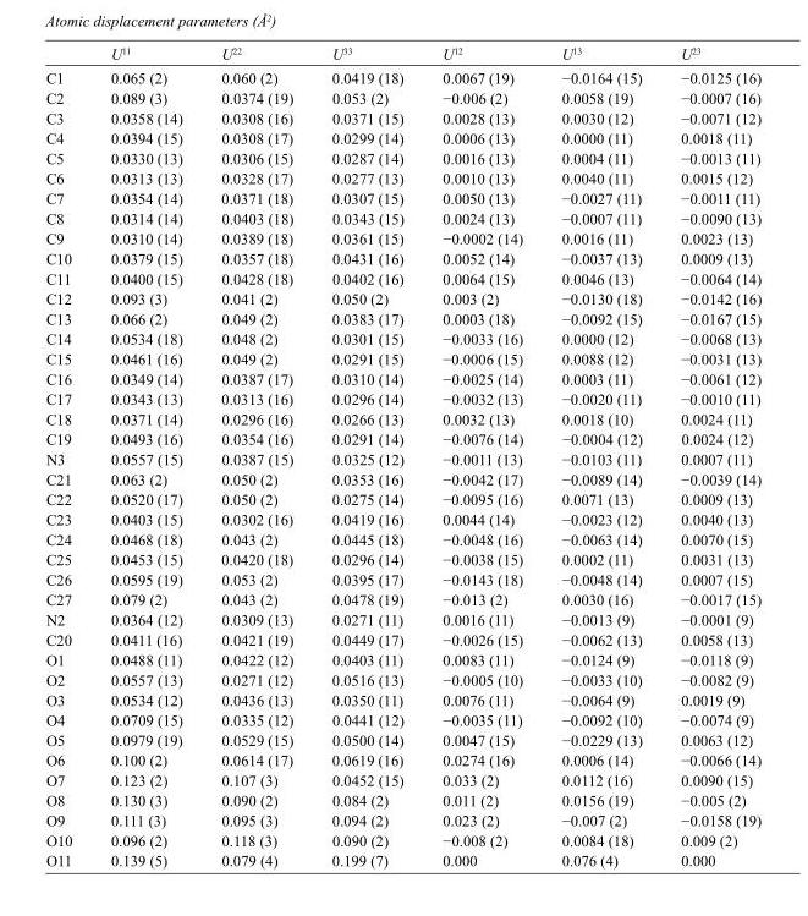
<table><thead><tr><td></td><td>U<sup>11</sup></td><td>U<sup>22</sup></td><td>U<sup>33</sup></td><td>U<sup>12</sup></td><td>U<sup>13</sup></td><td>U<sup>23</sup></td></tr></thead><tbody><tr><td>C1</td><td>0.065 (2)</td><td>0.060 (2)</td><td>0.0419 (18)</td><td>0.0067 (19)</td><td>−0.0164 (15)</td><td>−0.0125 (16)</td></tr><tr><td>C2</td><td>0.089 (3)</td><td>0.0374 (19)</td><td>0.053 (2)</td><td>−0.006 (2)</td><td>0.0058 (19)</td><td>−0.0007 (16)</td></tr><tr><td>C3</td><td>0.0358 (14)</td><td>0.0308 (16)</td><td>0.0371 (15)</td><td>0.0028 (13)</td><td>0.0030 (12)</td><td>−0.0071 (12)</td></tr><tr><td>C4</td><td>0.0394 (15)</td><td>0.0308 (17)</td><td>0.0299 (14)</td><td>0.0006 (13)</td><td>0.0000 (11)</td><td>0.0018 (11)</td></tr><tr><td>C5</td><td>0.0330 (13)</td><td>0.0306 (15)</td><td>0.0287 (14)</td><td>0.0016 (13)</td><td>0.0004 (11)</td><td>−0.0013 (11)</td></tr><tr><td>C6</td><td>0.0313 (13)</td><td>0.0328 (17)</td><td>0.0277 (13)</td><td>0.0010 (13)</td><td>0.0040 (11)</td><td>0.0015 (12)</td></tr><tr><td>C7</td><td>0.0354 (14)</td><td>0.0371 (18)</td><td>0.0307 (15)</td><td>0.0050 (13)</td><td>−0.0027 (11)</td><td>−0.0011 (11)</td></tr><tr><td>C8</td><td>0.0314 (14)</td><td>0.0403 (18)</td><td>0.0343 (15)</td><td>0.0024 (13)</td><td>−0.0007 (11)</td><td>−0.0090 (13)</td></tr><tr><td>C9</td><td>0.0310 (14)</td><td>0.0389 (18)</td><td>0.0361 (15)</td><td>−0.0002 (14)</td><td>0.0016 (11)</td><td>0.0023 (13)</td></tr><tr><td>C10</td><td>0.0379 (15)</td><td>0.0357 (18)</td><td>0.0431 (16)</td><td>0.0052 (14)</td><td>−0.0037 (13)</td><td>0.0009 (13)</td></tr><tr><td>C11</td><td>0.0400 (15)</td><td>0.0428 (18)</td><td>0.0402 (16)</td><td>0.0064 (15)</td><td>0.0046 (13)</td><td>−0.0064 (14)</td></tr><tr><td>C12</td><td>0.093 (3)</td><td>0.041 (2)</td><td>0.050 (2)</td><td>0.003 (2)</td><td>−0.0130 (18)</td><td>−0.0142 (16)</td></tr><tr><td>C13</td><td>0.066 (2)</td><td>0.049 (2)</td><td>0.0383 (17)</td><td>0.0003 (18)</td><td>−0.0092 (15)</td><td>−0.0167 (15)</td></tr><tr><td>C14</td><td>0.0534 (18)</td><td>0.048 (2)</td><td>0.0301 (15)</td><td>−0.0033 (16)</td><td>0.0000 (12)</td><td>−0.0068 (13)</td></tr><tr><td>C15</td><td>0.0461 (16)</td><td>0.049 (2)</td><td>0.0291 (15)</td><td>−0.0006 (15)</td><td>0.0088 (12)</td><td>−0.0031 (13)</td></tr><tr><td>C16</td><td>0.0349 (14)</td><td>0.0387 (17)</td><td>0.0310 (14)</td><td>−0.0025 (14)</td><td>0.0003 (11)</td><td>−0.0061 (12)</td></tr><tr><td>C17</td><td>0.0343 (13)</td><td>0.0313 (16)</td><td>0.0296 (14)</td><td>−0.0032 (13)</td><td>−0.0020 (11)</td><td>−0.0010 (11)</td></tr><tr><td>C18</td><td>0.0371 (14)</td><td>0.0296 (16)</td><td>0.0266 (13)</td><td>0.0032 (13)</td><td>0.0018 (10)</td><td>0.0024 (11)</td></tr><tr><td>C19</td><td>0.0493 (16)</td><td>0.0354 (16)</td><td>0.0291 (14)</td><td>−0.0076 (14)</td><td>−0.0004 (12)</td><td>0.0024 (12)</td></tr><tr><td>N3</td><td>0.0557 (15)</td><td>0.0387 (15)</td><td>0.0325 (12)</td><td>−0.0011 (13)</td><td>−0.0103 (11)</td><td>0.0007 (11)</td></tr><tr><td>C21</td><td>0.063 (2)</td><td>0.050 (2)</td><td>0.0353 (16)</td><td>−0.0042 (17)</td><td>−0.0089 (14)</td><td>−0.0039 (14)</td></tr><tr><td>C22</td><td>0.0520 (17)</td><td>0.050 (2)</td><td>0.0275 (14)</td><td>−0.0095 (16)</td><td>0.0071 (13)</td><td>0.0009 (13)</td></tr><tr><td>C23</td><td>0.0403 (15)</td><td>0.0302 (16)</td><td>0.0419 (16)</td><td>0.0044 (14)</td><td>−0.0023 (12)</td><td>0.0040 (13)</td></tr><tr><td>C24</td><td>0.0468 (18)</td><td>0.043 (2)</td><td>0.0445 (18)</td><td>−0.0048 (16)</td><td>−0.0063 (14)</td><td>0.0070 (15)</td></tr><tr><td>C25</td><td>0.0453 (15)</td><td>0.0420 (18)</td><td>0.0296 (14)</td><td>−0.0038 (15)</td><td>0.0002 (11)</td><td>0.0031 (13)</td></tr><tr><td>C26</td><td>0.0595 (19)</td><td>0.053 (2)</td><td>0.0395 (17)</td><td>−0.0143 (18)</td><td>−0.0048 (14)</td><td>0.0007 (15)</td></tr><tr><td>C27</td><td>0.079 (2)</td><td>0.043 (2)</td><td>0.0478 (19)</td><td>−0.013 (2)</td><td>0.0030 (16)</td><td>−0.0017 (15)</td></tr><tr><td>N2</td><td>0.0364 (12)</td><td>0.0309 (13)</td><td>0.0271 (11)</td><td>0.0016 (11)</td><td>−0.0013 (9)</td><td>−0.0001 (9)</td></tr><tr><td>C20</td><td>0.0411 (16)</td><td>0.0421 (19)</td><td>0.0449 (17)</td><td>−0.0026 (15)</td><td>−0.0062 (13)</td><td>0.0058 (13)</td></tr><tr><td>O1</td><td>0.0488 (11)</td><td>0.0422 (12)</td><td>0.0403 (11)</td><td>0.0083 (11)</td><td>−0.0124 (9)</td><td>−0.0118 (9)</td></tr><tr><td>O2</td><td>0.0557 (13)</td><td>0.0271 (12)</td><td>0.0516 (13)</td><td>−0.0005 (10)</td><td>−0.0033 (10)</td><td>−0.0082 (9)</td></tr><tr><td>O3</td><td>0.0534 (12)</td><td>0.0436 (13)</td><td>0.0350 (11)</td><td>0.0076 (11)</td><td>−0.0064 (9)</td><td>0.0019 (9)</td></tr><tr><td>O4</td><td>0.0709 (15)</td><td>0.0335 (12)</td><td>0.0441 (12)</td><td>−0.0035 (11)</td><td>−0.0092 (10)</td><td>−0.0074 (9)</td></tr><tr><td>O5</td><td>0.0979 (19)</td><td>0.0529 (15)</td><td>0.0500 (14)</td><td>0.0047 (15)</td><td>−0.0229 (13)</td><td>0.0063 (12)</td></tr><tr><td>O6</td><td>0.100 (2)</td><td>0.0614 (17)</td><td>0.0619 (16)</td><td>0.0274 (16)</td><td>0.0006 (14)</td><td>−0.0066 (14)</td></tr><tr><td>O7</td><td>0.123 (2)</td><td>0.107 (3)</td><td>0.0452 (15)</td><td>0.033 (2)</td><td>0.0112 (16)</td><td>0.0090 (15)</td></tr><tr><td>O8</td><td>0.130 (3)</td><td>0.090 (2)</td><td>0.084 (2)</td><td>0.011 (2)</td><td>0.0156 (19)</td><td>−0.005 (2)</td></tr><tr><td>O9</td><td>0.111 (3)</td><td>0.095 (3)</td><td>0.094 (2)</td><td>0.023 (2)</td><td>−0.007 (2)</td><td>−0.0158 (19)</td></tr><tr><td>O10</td><td>0.096 (2)</td><td>0.118 (3)</td><td>0.090 (2)</td><td>−0.008 (2)</td><td>0.0084 (18)</td><td>0.009 (2)</td></tr><tr><td>O11</td><td>0.139 (5)</td><td>0.079 (4)</td><td>0.199 (7)</td><td>0.000</td><td>0.076 (4)</td><td>0.000</td></tr></tbody></table>